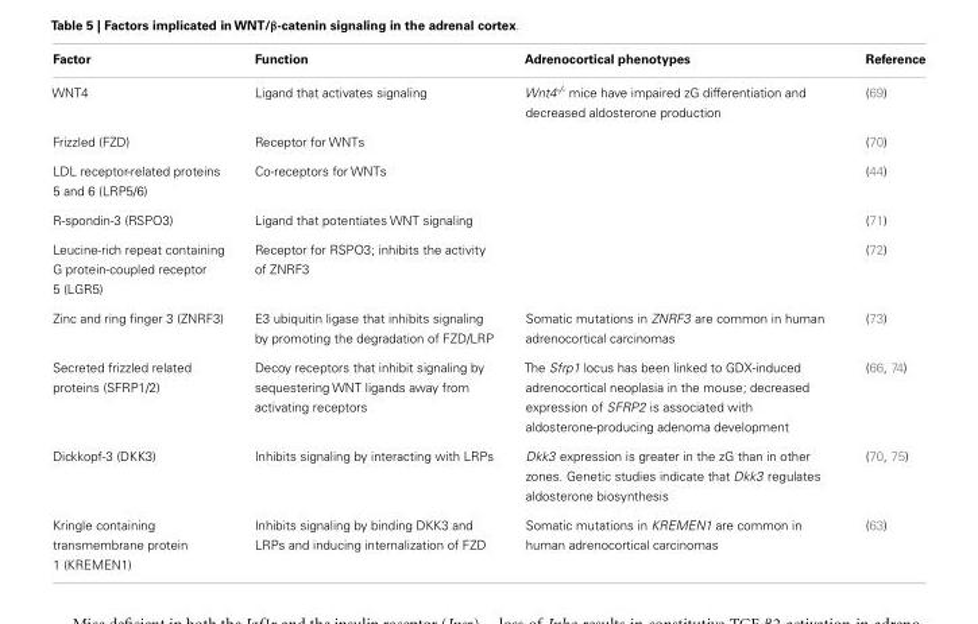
<table><thead><tr><td>Factor</td><td>Function</td><td>Adrenocortical phenotypes</td><td>Reference</td></tr></thead><tbody><tr><td>WNT4</td><td>Ligand that activates signaling</td><td>Wnt4<sup>-/-</sup> mice have impaired zG differentiation and decreased aldosterone production</td><td>(69)</td></tr><tr><td>Frizzled (FZD)</td><td>Receptor for WNTs</td><td></td><td>(70)</td></tr><tr><td>LDL receptor-related proteins 5 and 6 (LRP5/6)</td><td>Co-receptors for WNTs</td><td></td><td>(44)</td></tr><tr><td>R-spondin-3 (RSPO3)</td><td>Ligand that potentiates WNT signaling</td><td></td><td>(71)</td></tr><tr><td>Leucine-rich repeat containing G protein-coupled receptor 5 (LGR5)</td><td>Receptor for RSPO3; inhibits the activity of ZNRF3</td><td></td><td>(72)</td></tr><tr><td>Zinc and ring finger 3 (ZNRF3)</td><td>E3 ubiquitin ligase that inhibits signaling by promoting the degradation of FZD/LRP</td><td>Somatic mutations in ZNRF3 are common in human adrenocortical carcinomas</td><td>(73)</td></tr><tr><td>Secreted frizzled related proteins (SFRP1/2)</td><td>Decoy receptors that inhibit signaling by sequestering WNT ligands away from activating receptors</td><td>The Sfrp1 locus has been linked to GDX-induced adrenocortical neoplasia in the mouse; decreased expression of SFRP2 is associated with aldosterone-producing adenoma development</td><td>(66, 74)</td></tr><tr><td>Dickkopf-3 (DKK3)</td><td>Inhibits signaling by interacting with LRPs</td><td>Dkk3 expression is greater in the zG than in other zones. Genetic studies indicate that Dkk3 regulates aldosterone biosynthesis</td><td>(70, 75)</td></tr><tr><td>Kringle containing transmembrane protein 1 (KREMEN1)</td><td>Inhibits signaling by binding DKK3 and LRPs and inducing internalization of FZD</td><td>Somatic mutations in KREMEN1 are common in human adrenocortical carcinomas</td><td>(63)</td></tr></tbody></table>